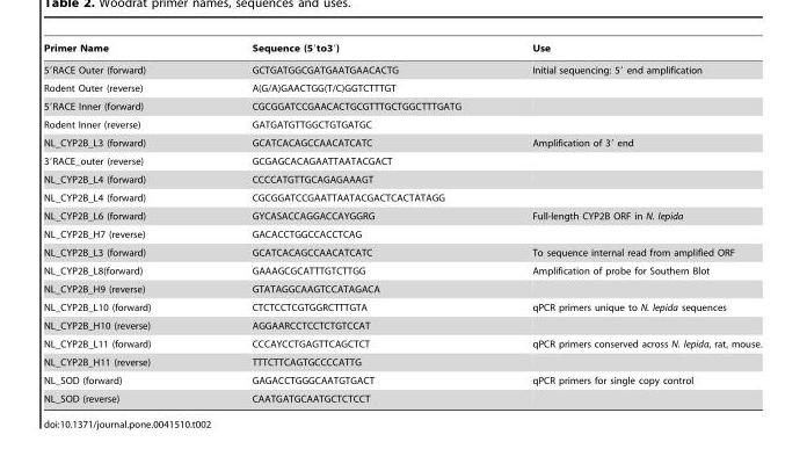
<table><thead><tr><td>Primer Name</td><td>Sequence (5′to3′)</td><td>Use</td></tr></thead><tbody><tr><td>5′RACE Outer (forward)</td><td>GCTGATGGCGATGAATGAACACTG</td><td>Initial sequencing: 5′ end amplification</td></tr><tr><td>Rodent Outer (reverse)</td><td>A(G/A)GAACTGG(T/C)GGTCTTTGT</td><td></td></tr><tr><td>5′RACE Inner (forward)</td><td>CGCGGATCCGAACACTGCGTTTGCTGGCTTTGATG</td><td></td></tr><tr><td>Rodent Inner (reverse)</td><td>GATGATGTTGGCTGTGATGC</td><td></td></tr><tr><td>NL_CYP2B_L3 (forward)</td><td>GCATCACAGCCAACATCATC</td><td>Amplification of 3′ end</td></tr><tr><td>3′RACE_outer (reverse)</td><td>GCGAGCACAGAATTAATACGACT</td><td></td></tr><tr><td>NL_CYP2B_L4 (forward)</td><td>CCCCATGTTGCAGAGAAAGT</td><td></td></tr><tr><td>NL_CYP2B_L4 (forward)</td><td>CGCGGATCCGAATTAATACGACTCACTATAGG</td><td></td></tr><tr><td>NL_CYP2B_L6 (forward)</td><td>GYCASACCAGGACCAYGGRG</td><td>Full-length CYP2B ORF in N. lepida</td></tr><tr><td>NL_CYP2B_H7 (reverse)</td><td>GACACCTGGCCACCTCAG</td><td></td></tr><tr><td>NL_CYP2B_L3 (forward)</td><td>GCATCACAGCCAACATCATC</td><td>To sequence internal read from amplified ORF</td></tr><tr><td>NL_CYP2B_L8(forward)</td><td>GAAAGCGCATTTGTCTTGG</td><td>Amplification of probe for Southern Blot</td></tr><tr><td>NL_CYP2B_H9 (reverse)</td><td>GTATAGGCAAGTCCATAGACA</td><td></td></tr><tr><td>NL_CYP2B_L10 (forward)</td><td>CTCTCCTCGTGGRCTTTGTA</td><td>qPCR primers unique to N. lepida sequences</td></tr><tr><td>NL_CYP2B_H10 (reverse)</td><td>AGGAARCCTCCTCTGTCCAT</td><td></td></tr><tr><td>NL_CYP2B_L11 (forward)</td><td>CCCAYCCTGAGTTCAGCTCT</td><td>qPCR primers conserved across N. lepida, rat, mouse.</td></tr><tr><td>NL_CYP2B_H11 (reverse)</td><td>TTTCTTCAGTGCCCCATTG</td><td></td></tr><tr><td>NL_SOD (forward)</td><td>GAGACCTGGGCAATGTGACT</td><td>qPCR primers for single copy control</td></tr><tr><td>NL_SOD (reverse)</td><td>CAATGATGCAATGCTCTCCT</td><td></td></tr></tbody></table>